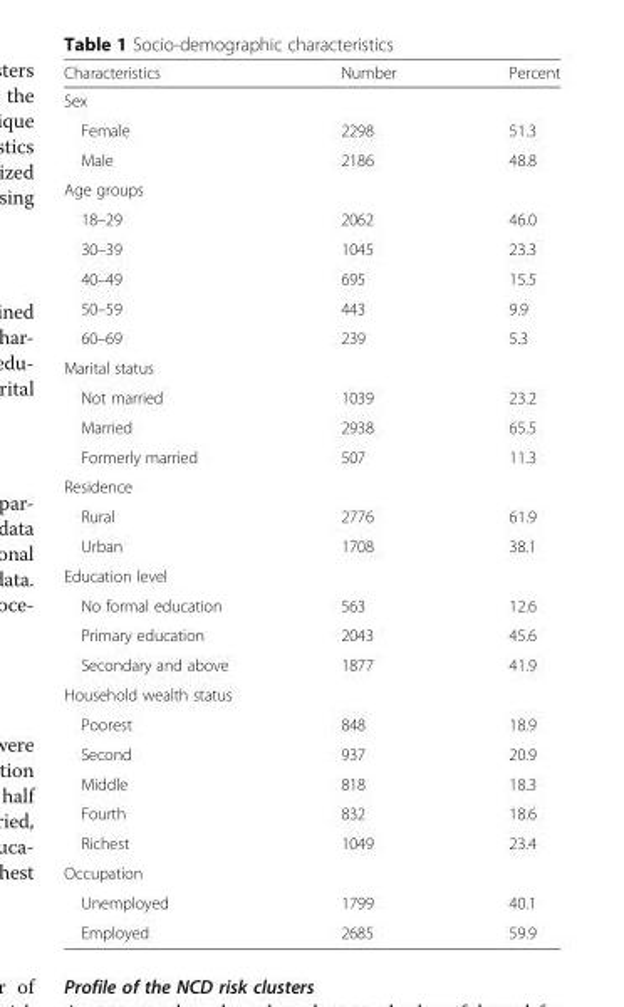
<table><thead><tr><td>Characteristics</td><td>Number</td><td>Percent</td></tr></thead><tbody><tr><td colspan="3">Sex</td></tr><tr><td>Female</td><td>2298</td><td>51.3</td></tr><tr><td>Male</td><td>2186</td><td>48.8</td></tr><tr><td colspan="3">Age groups</td></tr><tr><td>18–29</td><td>2062</td><td>46.0</td></tr><tr><td>30–39</td><td>1045</td><td>23.3</td></tr><tr><td>40–49</td><td>695</td><td>15.5</td></tr><tr><td>50–59</td><td>443</td><td>9.9</td></tr><tr><td>60–69</td><td>239</td><td>5.3</td></tr><tr><td colspan="3">Marital status</td></tr><tr><td>Not married</td><td>1039</td><td>23.2</td></tr><tr><td>Married</td><td>2938</td><td>65.5</td></tr><tr><td>Formerly married</td><td>507</td><td>11.3</td></tr><tr><td colspan="3">Residence</td></tr><tr><td>Rural</td><td>2776</td><td>61.9</td></tr><tr><td>Urban</td><td>1708</td><td>38.1</td></tr><tr><td colspan="3">Education level</td></tr><tr><td>No formal education</td><td>563</td><td>12.6</td></tr><tr><td>Primary education</td><td>2043</td><td>45.6</td></tr><tr><td>Secondary and above</td><td>1877</td><td>41.9</td></tr><tr><td colspan="3">Household wealth status</td></tr><tr><td>Poorest</td><td>848</td><td>18.9</td></tr><tr><td>Second</td><td>937</td><td>20.9</td></tr><tr><td>Middle</td><td>818</td><td>18.3</td></tr><tr><td>Fourth</td><td>832</td><td>18.6</td></tr><tr><td>Richest</td><td>1049</td><td>23.4</td></tr><tr><td colspan="3">Occupation</td></tr><tr><td>Unemployed</td><td>1799</td><td>40.1</td></tr><tr><td>Employed</td><td>2685</td><td>59.9</td></tr></tbody></table>